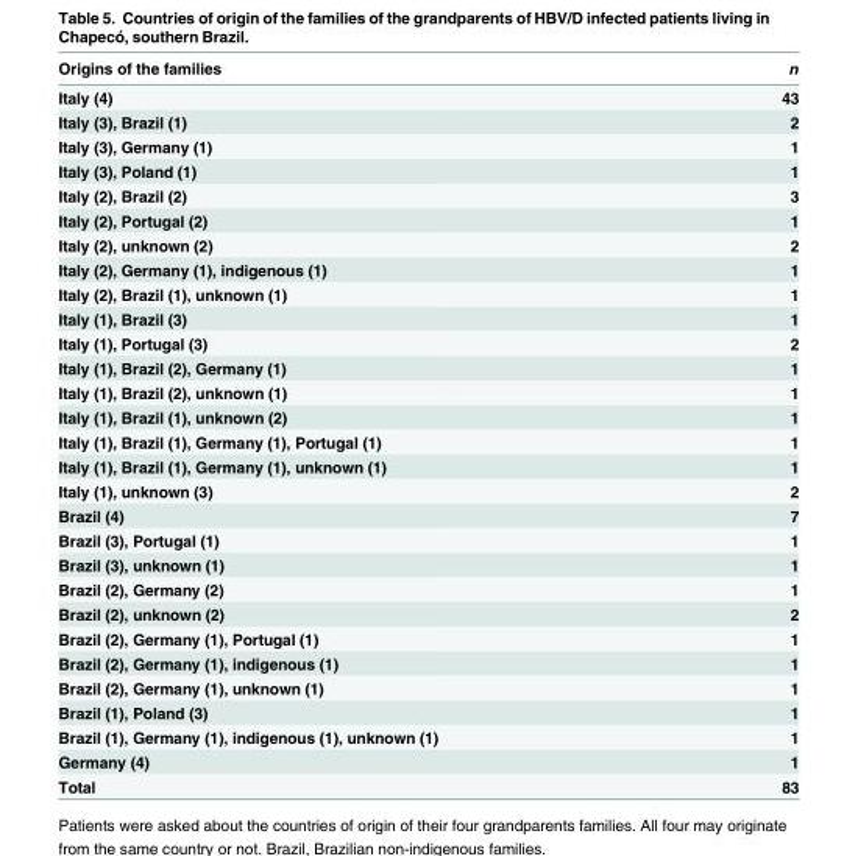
<table><thead><tr><td>Origins of the families</td><td>n</td></tr></thead><tbody><tr><td>Italy (4)</td><td>43</td></tr><tr><td>Italy (3), Brazil (1)</td><td>2</td></tr><tr><td>Italy (3), Germany (1)</td><td>1</td></tr><tr><td>Italy (3), Poland (1)</td><td>1</td></tr><tr><td>Italy (2), Brazil (2)</td><td>3</td></tr><tr><td>Italy (2), Portugal (2)</td><td>1</td></tr><tr><td>Italy (2), unknown (2)</td><td>2</td></tr><tr><td>Italy (2), Germany (1), indigenous (1)</td><td>1</td></tr><tr><td>Italy (2), Brazil (1), unknown (1)</td><td>1</td></tr><tr><td>Italy (1), Brazil (3)</td><td>1</td></tr><tr><td>Italy (1), Portugal (3)</td><td>2</td></tr><tr><td>Italy (1), Brazil (2), Germany (1)</td><td>1</td></tr><tr><td>Italy (1), Brazil (2), unknown (1)</td><td>1</td></tr><tr><td>Italy (1), Brazil (1), unknown (2)</td><td>1</td></tr><tr><td>Italy (1), Brazil (1), Germany (1), Portugal (1)</td><td>1</td></tr><tr><td>Italy (1), Brazil (1), Germany (1), unknown (1)</td><td>1</td></tr><tr><td>Italy (1), unknown (3)</td><td>2</td></tr><tr><td>Brazil (4)</td><td>7</td></tr><tr><td>Brazil (3), Portugal (1)</td><td>1</td></tr><tr><td>Brazil (3), unknown (1)</td><td>1</td></tr><tr><td>Brazil (2), Germany (2)</td><td>1</td></tr><tr><td>Brazil (2), unknown (2)</td><td>2</td></tr><tr><td>Brazil (2), Germany (1), Portugal (1)</td><td>1</td></tr><tr><td>Brazil (2), Germany (1), indigenous (1)</td><td>1</td></tr><tr><td>Brazil (2), Germany (1), unknown (1)</td><td>1</td></tr><tr><td>Brazil (1), Poland (3)</td><td>1</td></tr><tr><td>Brazil (1), Germany (1), indigenous (1), unknown (1)</td><td>1</td></tr><tr><td>Germany (4)</td><td>1</td></tr><tr><td>Total</td><td>83</td></tr></tbody></table>